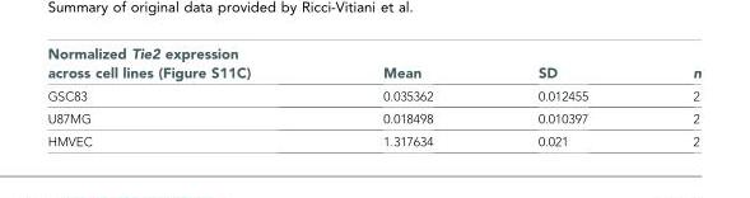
<table><thead><tr><td>Normalized Tie2 expression across cell lines (Figure S11C)</td><td>Mean</td><td>SD</td><td>n</td></tr></thead><tbody><tr><td>GSC83</td><td>0.035362</td><td>0.012455</td><td>2</td></tr><tr><td>U87MG</td><td>0.018498</td><td>0.010397</td><td>2</td></tr><tr><td>HMVEC</td><td>1.317634</td><td>0.021</td><td>2</td></tr></tbody></table>